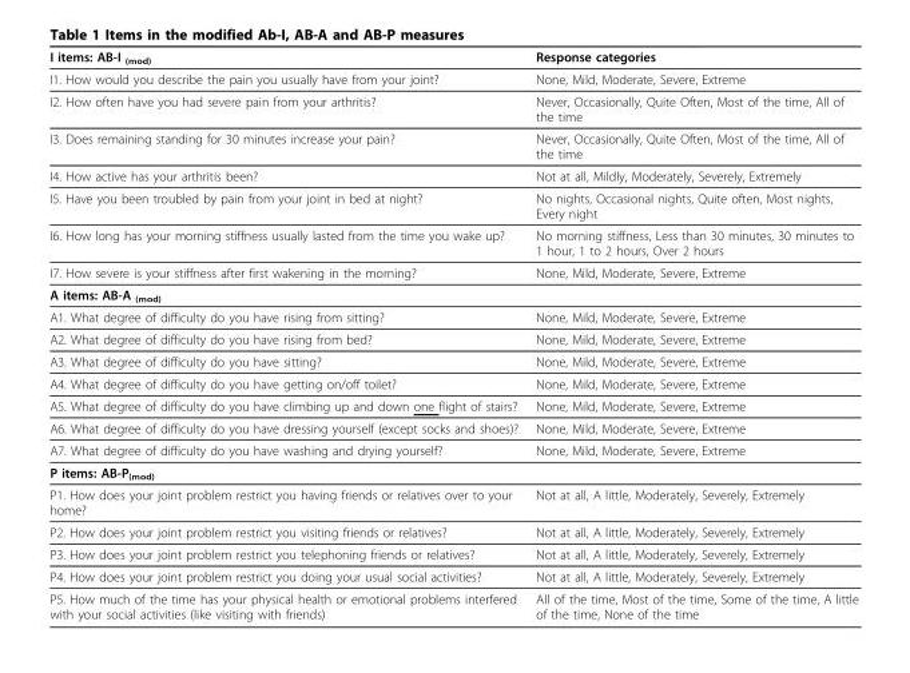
<table><thead><tr><td>I items: AB-I <sub>(mod)</sub></td><td>Response categories</td></tr></thead><tbody><tr><td>I1. How would you describe the pain you usually have from your joint?</td><td>None, Mild, Moderate, Severe, Extreme</td></tr><tr><td>I2. How often have you had severe pain from your arthritis?</td><td>Never, Occasionally, Quite Often, Most of the time, All of the time</td></tr><tr><td>I3. Does remaining standing for 30 minutes increase your pain?</td><td>Never, Occasionally, Quite Often, Most of the time, All of the time</td></tr><tr><td>I4. How active has your arthritis been?</td><td>Not at all, Mildly, Moderately, Severely, Extremely</td></tr><tr><td>I5. Have you been troubled by pain from your joint in bed at night?</td><td>No nights, Occasional nights, Quite often, Most nights, Every night</td></tr><tr><td>I6. How long has your morning stiffness usually lasted from the time you wake up?</td><td>No morning stiffness, Less than 30 minutes, 30 minutes to 1 hour, 1 to 2 hours, Over 2 hours</td></tr><tr><td>I7. How severe is your stiffness after first wakening in the morning?</td><td>None, Mild, Moderate, Severe, Extreme</td></tr><tr><td colspan="2">A items: AB-A <sub>(mod)</sub></td></tr><tr><td>A1. What degree of difficulty do you have rising from sitting?</td><td>None, Mild, Moderate, Severe, Extreme</td></tr><tr><td>A2. What degree of difficulty do you have rising from bed?</td><td>None, Mild, Moderate, Severe, Extreme</td></tr><tr><td>A3. What degree of difficulty do you have sitting?</td><td>None, Mild, Moderate, Severe, Extreme</td></tr><tr><td>A4. What degree of difficulty do you have getting on/off toilet?</td><td>None, Mild, Moderate, Severe, Extreme</td></tr><tr><td>A5. What degree of difficulty do you have climbing up and down one flight of stairs?</td><td>None, Mild, Moderate, Severe, Extreme</td></tr><tr><td>A6. What degree of difficulty do you have dressing yourself (except socks and shoes)?</td><td>None, Mild, Moderate, Severe, Extreme</td></tr><tr><td>A7. What degree of difficulty do you have washing and drying yourself?</td><td>None, Mild, Moderate, Severe, Extreme</td></tr><tr><td colspan="2">P items: AB-P<sub>(mod)</sub></td></tr><tr><td>P1. How does your joint problem restrict you having friends or relatives over to your home?</td><td>Not at all, A little, Moderately, Severely, Extremely</td></tr><tr><td>P2. How does your joint problem restrict you visiting friends or relatives?</td><td>Not at all, A little, Moderately, Severely, Extremely</td></tr><tr><td>P3. How does your joint problem restrict you telephoning friends or relatives?</td><td>Not at all, A little, Moderately, Severely, Extremely</td></tr><tr><td>P4. How does your joint problem restrict you doing your usual social activities?</td><td>Not at all, A little, Moderately, Severely, Extremely</td></tr><tr><td>P5. How much of the time has your physical health or emotional problems interfered with your social activities (like visiting with friends)</td><td>All of the time, Most of the time, Some of the time, A little of the time, None of the time</td></tr></tbody></table>